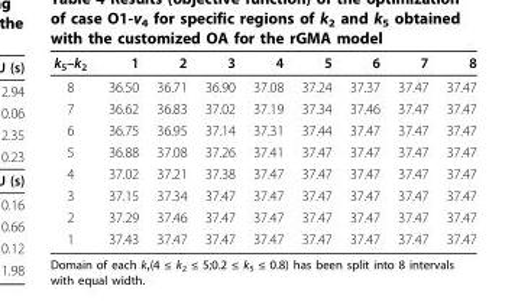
<table><thead><tr><td>k5–k2</td><td>1</td><td>2</td><td>3</td><td>4</td><td>5</td><td>6</td><td>7</td><td>8</td></tr></thead><tbody><tr><td>8</td><td>36.50</td><td>36.71</td><td>36.90</td><td>37.08</td><td>37.24</td><td>37.37</td><td>37.47</td><td>37.47</td></tr><tr><td>7</td><td>36.62</td><td>36.83</td><td>37.02</td><td>37.19</td><td>37.34</td><td>37.46</td><td>37.47</td><td>37.47</td></tr><tr><td>6</td><td>36.75</td><td>36.95</td><td>37.14</td><td>37.31</td><td>37.44</td><td>37.47</td><td>37.47</td><td>37.47</td></tr><tr><td>5</td><td>36.88</td><td>37.08</td><td>37.26</td><td>37.41</td><td>37.47</td><td>37.47</td><td>37.47</td><td>37.47</td></tr><tr><td>4</td><td>37.02</td><td>37.21</td><td>37.38</td><td>37.47</td><td>37.47</td><td>37.47</td><td>37.47</td><td>37.47</td></tr><tr><td>3</td><td>37.15</td><td>37.34</td><td>37.47</td><td>37.47</td><td>37.47</td><td>37.47</td><td>37.47</td><td>37.47</td></tr><tr><td>2</td><td>37.29</td><td>37.46</td><td>37.47</td><td>37.47</td><td>37.47</td><td>37.47</td><td>37.47</td><td>37.47</td></tr><tr><td>1</td><td>37.43</td><td>37.47</td><td>37.47</td><td>37.47</td><td>37.47</td><td>37.47</td><td>37.47</td><td>37.47</td></tr></tbody></table>